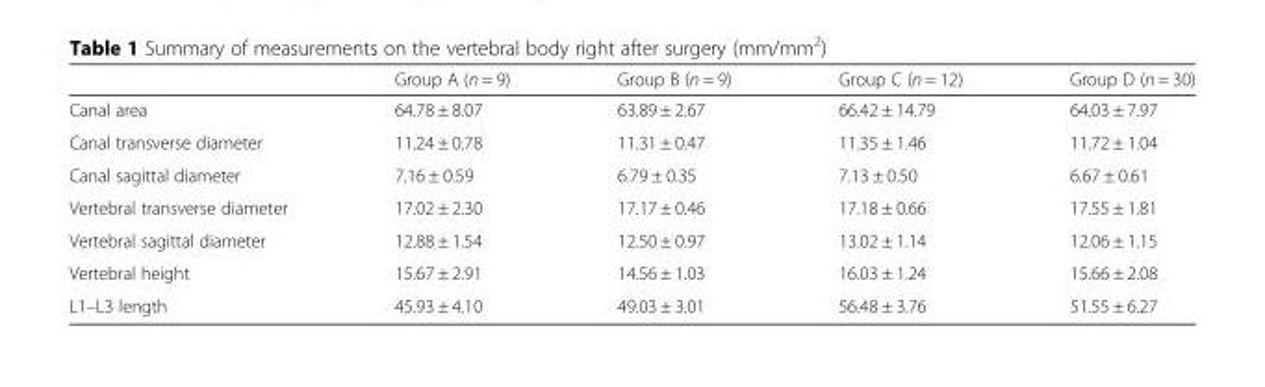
<table><thead><tr><td></td><td>Group A (n = 9)</td><td>Group B (n = 9)</td><td>Group C (n = 12)</td><td>Group D (n = 30)</td></tr></thead><tbody><tr><td>Canal area</td><td>64.78 ± 8.07</td><td>63.89 ± 2.67</td><td>66.42 ± 14.79</td><td>64.03 ± 7.97</td></tr><tr><td>Canal transverse diameter</td><td>11.24 ± 0.78</td><td>11.31 ± 0.47</td><td>11.35 ± 1.46</td><td>11.72 ± 1.04</td></tr><tr><td>Canal sagittal diameter</td><td>7.16 ± 0.59</td><td>6.79 ± 0.35</td><td>7.13 ± 0.50</td><td>6.67 ± 0.61</td></tr><tr><td>Vertebral transverse diameter</td><td>17.02 ± 2.30</td><td>17.17 ± 0.46</td><td>17.18 ± 0.66</td><td>17.55 ± 1.81</td></tr><tr><td>Vertebral sagittal diameter</td><td>12.88 ± 1.54</td><td>12.50 ± 0.97</td><td>13.02 ± 1.14</td><td>12.06 ± 1.15</td></tr><tr><td>Vertebral height</td><td>15.67 ± 2.91</td><td>14.56 ± 1.03</td><td>16.03 ± 1.24</td><td>15.66 ± 2.08</td></tr><tr><td>L1–L3 length</td><td>45.93 ± 4.10</td><td>49.03 ± 3.01</td><td>56.48 ± 3.76</td><td>51.55 ± 6.27</td></tr></tbody></table>